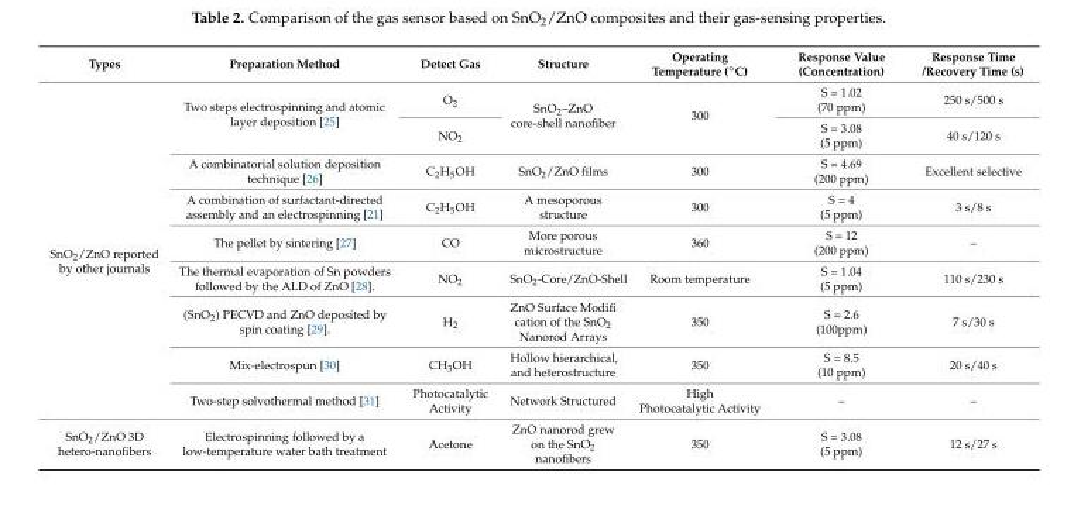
<table><thead><tr><td>Types</td><td>Preparation Method</td><td>Detect Gas</td><td>Structure</td><td>Operating Temperature (◦C)</td><td>Response Value (Concentration)</td><td>Response Time /Recovery Time (s)</td></tr></thead><tbody><tr><td rowspan="9">SnO<sub>2</sub>/ZnO reported by other journals</td><td rowspan="2">Two steps electrospinning and atomic layer deposition [25]</td><td>O<sub>2</sub></td><td rowspan="2">SnO<sub>2</sub>–ZnO core-shell nanofiber</td><td rowspan="2">300</td><td>S = 1.02 (70 ppm)</td><td>250 s/500 s</td></tr><tr><td>NO<sub>2</sub></td><td>S = 3.08 (5 ppm)</td><td>40 s/120 s</td></tr><tr><td>A combinatorial solution deposition technique [26]</td><td>C<sub>2</sub>H<sub>5</sub>OH</td><td>SnO<sub>2</sub>/ZnO films</td><td>300</td><td>S = 4.69 (200 ppm)</td><td>Excellent selective</td></tr><tr><td>A combination of surfactant-directed assembly and an electrospinning [21]</td><td>C<sub>2</sub>H<sub>5</sub>OH</td><td>A mesoporous structure</td><td>300</td><td>S = 4 (5 ppm)</td><td>3 s/8 s</td></tr><tr><td>The pellet by sintering [27]</td><td>CO</td><td>More porous microstructure</td><td>360</td><td>S = 12 (200 ppm)</td><td>–</td></tr><tr><td>The thermal evaporation of Sn powders followed by the ALD of ZnO [28].</td><td>NO<sub>2</sub></td><td>SnO<sub>2</sub>-Core/ZnO-Shell</td><td>Room temperature</td><td>S = 1.04 (5 ppm)</td><td>110 s/230 s</td></tr><tr><td>(SnO<sub>2</sub>) PECVD and ZnO deposited by spin coating [29].</td><td>H<sub>2</sub></td><td>ZnO Surface Modifi cation of the SnO<sub>2</sub> Nanorod Arrays</td><td>350</td><td>S = 2.6 (100ppm)</td><td>7 s/30 s</td></tr><tr><td>Mix-electrospun [30]</td><td>CH<sub>3</sub>OH</td><td>Hollow hierarchical, and heterostructure</td><td>350</td><td>S = 8.5 (10 ppm)</td><td>20 s/40 s</td></tr><tr><td>Two-step solvothermal method [31]</td><td>Photocatalytic Activity</td><td>Network Structured</td><td>High Photocatalytic Activity</td><td>–</td><td>–</td></tr><tr><td>SnO<sub>2</sub>/ZnO 3D hetero-nanofibers</td><td>Electrospinning followed by a low-temperature water bath treatment</td><td>Acetone</td><td>ZnO nanorod grew on the SnO<sub>2</sub> nanofibers</td><td>350</td><td>S = 3.08 (5 ppm)</td><td>12 s/27 s</td></tr></tbody></table>